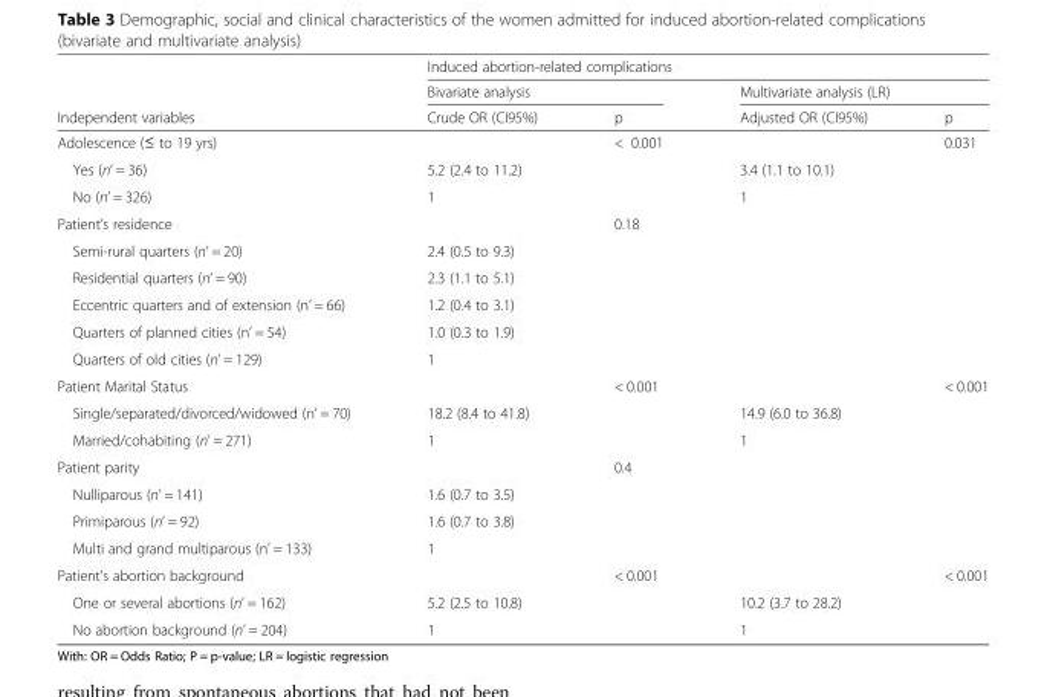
<table><thead><tr><td rowspan="3">Independent variables</td><td colspan="4">Induced abortion-related complications</td></tr><tr><td colspan="2">Bivariate analysis</td><td colspan="2">Multivariate analysis (LR)</td></tr><tr><td>Crude OR (CI95%)</td><td>p</td><td>Adjusted OR (CI95%)</td><td>p</td></tr></thead><tbody><tr><td>Adolescence (≤ to 19 yrs)</td><td></td><td>&lt; 0.001</td><td></td><td>0.031</td></tr><tr><td>Yes (n’ = 36)</td><td>5.2 (2.4 to 11.2)</td><td></td><td>3.4 (1.1 to 10.1)</td><td></td></tr><tr><td>No (n’ = 326)</td><td>1</td><td></td><td>1</td><td></td></tr><tr><td>Patient’s residence</td><td></td><td>0.18</td><td></td><td></td></tr><tr><td>Semi-rural quarters (n’ = 20)</td><td>2.4 (0.5 to 9.3)</td><td></td><td></td><td></td></tr><tr><td>Residential quarters (n’ = 90)</td><td>2.3 (1.1 to 5.1)</td><td></td><td></td><td></td></tr><tr><td>Eccentric quarters and of extension (n’ = 66)</td><td>1.2 (0.4 to 3.1)</td><td></td><td></td><td></td></tr><tr><td>Quarters of planned cities (n’ = 54)</td><td>1.0 (0.3 to 1.9)</td><td></td><td></td><td></td></tr><tr><td>Quarters of old cities (n’ = 129)</td><td>1</td><td></td><td></td><td></td></tr><tr><td>Patient Marital Status</td><td></td><td>&lt; 0.001</td><td></td><td>&lt; 0.001</td></tr><tr><td>Single/separated/divorced/widowed (n’ = 70)</td><td>18.2 (8.4 to 41.8)</td><td></td><td>14.9 (6.0 to 36.8)</td><td></td></tr><tr><td>Married/cohabiting (n’ = 271)</td><td>1</td><td></td><td>1</td><td></td></tr><tr><td>Patient parity</td><td></td><td>0.4</td><td></td><td></td></tr><tr><td>Nulliparous (n’ = 141)</td><td>1.6 (0.7 to 3.5)</td><td></td><td></td><td></td></tr><tr><td>Primiparous (n’ = 92)</td><td>1.6 (0.7 to 3.8)</td><td></td><td></td><td></td></tr><tr><td>Multi and grand multiparous (n’ = 133)</td><td>1</td><td></td><td></td><td></td></tr><tr><td>Patient’s abortion background</td><td></td><td>&lt; 0.001</td><td></td><td>&lt; 0.001</td></tr><tr><td>One or several abortions (n’ = 162)</td><td>5.2 (2.5 to 10.8)</td><td></td><td>10.2 (3.7 to 28.2)</td><td></td></tr><tr><td>No abortion background (n’ = 204)</td><td>1</td><td></td><td>1</td><td></td></tr></tbody></table>